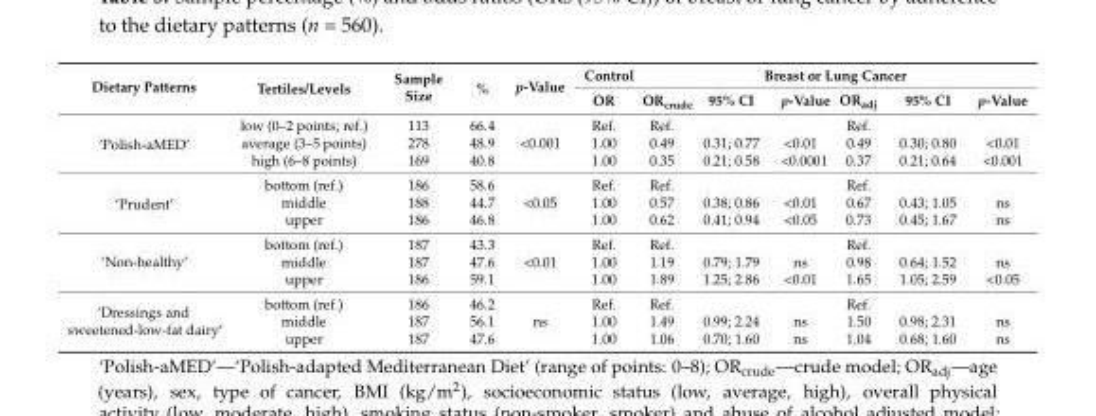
<table><thead><tr><td rowspan="2">Dietary Patterns</td><td rowspan="2">Tertiles/Levels</td><td rowspan="2">Sample Size</td><td rowspan="2">%</td><td rowspan="2">p-Value</td><td rowspan="2">Control OR</td><td colspan="6">Breast or Lung Cancer</td></tr><tr><td>OR<sub>crude</sub></td><td>95% CI</td><td>p-Value</td><td>OR<sub>adj</sub></td><td>95% CI</td><td>p-Value</td></tr></thead><tbody><tr><td rowspan="3">‘Polish-aMED’</td><td>low (0–2 points; ref.)</td><td>113</td><td>66.4</td><td></td><td>Ref.</td><td>Ref.</td><td></td><td></td><td>Ref.</td><td></td><td></td></tr><tr><td>average (3–5 points)</td><td>278</td><td>48.9</td><td>&lt;0.001</td><td>1.00</td><td>0.49</td><td>0.31; 0.77</td><td>&lt;0.01</td><td>0.49</td><td>0.30; 0.80</td><td>&lt;0.01</td></tr><tr><td>high (6–8 points)</td><td>169</td><td>40.8</td><td></td><td>1.00</td><td>0.35</td><td>0.21; 0.58</td><td>&lt;0.0001</td><td>0.37</td><td>0.21; 0.64</td><td>&lt;0.001</td></tr><tr><td rowspan="3">‘Prudent’</td><td>bottom (ref.)</td><td>186</td><td>58.6</td><td></td><td>Ref.</td><td>Ref.</td><td></td><td></td><td>Ref.</td><td></td><td></td></tr><tr><td>middle</td><td>188</td><td>44.7</td><td>&lt;0.05</td><td>1.00</td><td>0.57</td><td>0.38; 0.86</td><td>&lt;0.01</td><td>0.67</td><td>0.43; 1.05</td><td>ns</td></tr><tr><td>upper</td><td>186</td><td>46.8</td><td></td><td>1.00</td><td>0.62</td><td>0.41; 0.94</td><td>&lt;0.05</td><td>0.73</td><td>0.45; 1.67</td><td>ns</td></tr><tr><td rowspan="3">‘Non-healthy’</td><td>bottom (ref.)</td><td>187</td><td>43.3</td><td></td><td>Ref.</td><td>Ref.</td><td></td><td></td><td>Ref.</td><td></td><td></td></tr><tr><td>middle</td><td>187</td><td>47.6</td><td>&lt;0.01</td><td>1.00</td><td>1.19</td><td>0.79; 1.79</td><td>ns</td><td>0.98</td><td>0.64; 1.52</td><td>ns</td></tr><tr><td>upper</td><td>186</td><td>59.1</td><td></td><td>1.00</td><td>1.89</td><td>1.25; 2.86</td><td>&lt;0.01</td><td>1.65</td><td>1.05; 2.59</td><td>&lt;0.05</td></tr><tr><td rowspan="3">‘Dressings and sweetened-low-fat dairy’</td><td>bottom (ref.)</td><td>186</td><td>46.2</td><td></td><td>Ref.</td><td>Ref.</td><td></td><td></td><td>Ref.</td><td></td><td></td></tr><tr><td>middle</td><td>187</td><td>56.1</td><td>ns</td><td>1.00</td><td>1.49</td><td>0.99; 2.24</td><td>ns</td><td>1.50</td><td>0.98; 2.31</td><td>ns</td></tr><tr><td>upper</td><td>187</td><td>47.6</td><td></td><td>1.00</td><td>1.06</td><td>0.70; 1.60</td><td>ns</td><td>1.04</td><td>0.68; 1.60</td><td>ns</td></tr></tbody></table>